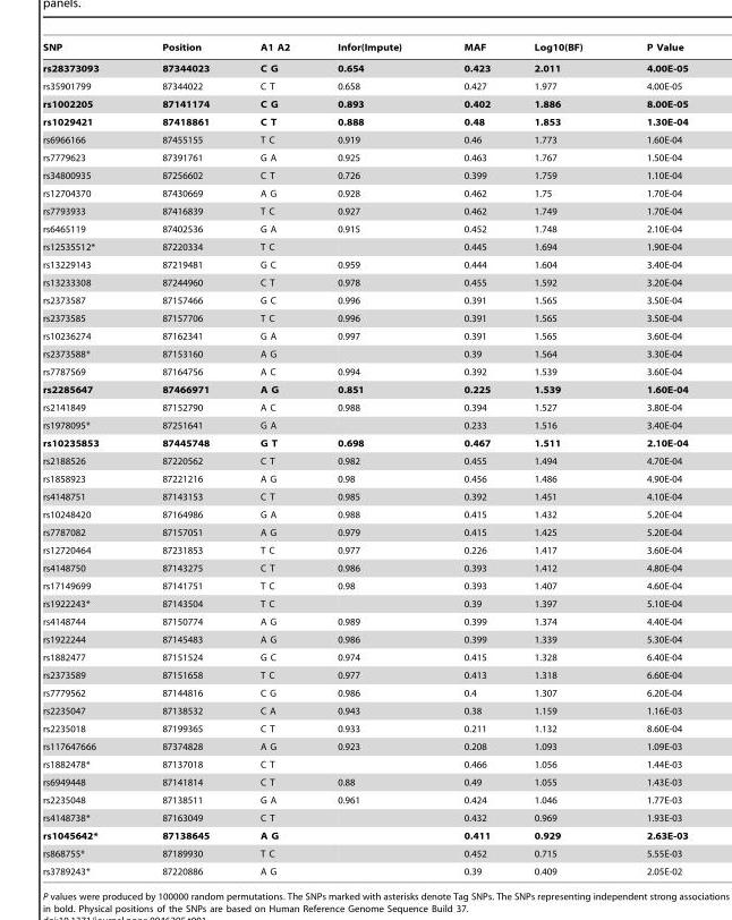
<table><thead><tr><td>SNP</td><td>Position</td><td>A1 A2</td><td>Infor(Impute)</td><td>MAF</td><td>Log10(BF)</td><td>P Value</td></tr></thead><tbody><tr><td>rs28373093</td><td>87344023</td><td>C G</td><td>0.654</td><td>0.423</td><td>2.011</td><td>4.00E-05</td></tr><tr><td>rs35901799</td><td>87344022</td><td>C T</td><td>0.658</td><td>0.427</td><td>1.977</td><td>4.00E-05</td></tr><tr><td>rs1002205</td><td>87141174</td><td>C G</td><td>0.893</td><td>0.402</td><td>1.886</td><td>8.00E-05</td></tr><tr><td>rs1029421</td><td>87418861</td><td>C T</td><td>0.888</td><td>0.48</td><td>1.853</td><td>1.30E-04</td></tr><tr><td>rs6966166</td><td>87455155</td><td>T C</td><td>0.919</td><td>0.46</td><td>1.773</td><td>1.60E-04</td></tr><tr><td>rs7779623</td><td>87391761</td><td>G A</td><td>0.925</td><td>0.463</td><td>1.767</td><td>1.50E-04</td></tr><tr><td>rs34800935</td><td>87256602</td><td>C T</td><td>0.726</td><td>0.399</td><td>1.759</td><td>1.10E-04</td></tr><tr><td>rs12704370</td><td>87430669</td><td>A G</td><td>0.928</td><td>0.462</td><td>1.75</td><td>1.70E-04</td></tr><tr><td>rs7793933</td><td>87416839</td><td>T C</td><td>0.927</td><td>0.462</td><td>1.749</td><td>1.70E-04</td></tr><tr><td>rs6465119</td><td>87402536</td><td>G A</td><td>0.915</td><td>0.452</td><td>1.748</td><td>2.10E-04</td></tr><tr><td>rs12535512*</td><td>87220334</td><td>T C</td><td></td><td>0.445</td><td>1.694</td><td>1.90E-04</td></tr><tr><td>rs13229143</td><td>87219481</td><td>G C</td><td>0.959</td><td>0.444</td><td>1.604</td><td>3.40E-04</td></tr><tr><td>rs13233308</td><td>87244960</td><td>C T</td><td>0.978</td><td>0.455</td><td>1.592</td><td>3.20E-04</td></tr><tr><td>rs2373587</td><td>87157466</td><td>G C</td><td>0.996</td><td>0.391</td><td>1.565</td><td>3.50E-04</td></tr><tr><td>rs2373585</td><td>87157706</td><td>T C</td><td>0.996</td><td>0.391</td><td>1.565</td><td>3.50E-04</td></tr><tr><td>rs10236274</td><td>87162341</td><td>G A</td><td>0.997</td><td>0.391</td><td>1.565</td><td>3.60E-04</td></tr><tr><td>rs2373588*</td><td>87153160</td><td>A G</td><td></td><td>0.39</td><td>1.564</td><td>3.30E-04</td></tr><tr><td>rs7787569</td><td>87164756</td><td>A C</td><td>0.994</td><td>0.392</td><td>1.539</td><td>3.60E-04</td></tr><tr><td>rs2285647</td><td>87466971</td><td>A G</td><td>0.851</td><td>0.225</td><td>1.539</td><td>1.60E-04</td></tr><tr><td>rs2141849</td><td>87152790</td><td>A C</td><td>0.988</td><td>0.394</td><td>1.527</td><td>3.80E-04</td></tr><tr><td>rs1978095*</td><td>87251641</td><td>G A</td><td></td><td>0.233</td><td>1.516</td><td>3.40E-04</td></tr><tr><td>rs10235853</td><td>87445748</td><td>G T</td><td>0.698</td><td>0.467</td><td>1.511</td><td>2.10E-04</td></tr><tr><td>rs2188526</td><td>87220562</td><td>C T</td><td>0.982</td><td>0.455</td><td>1.494</td><td>4.70E-04</td></tr><tr><td>rs1858923</td><td>87221216</td><td>A G</td><td>0.98</td><td>0.456</td><td>1.486</td><td>4.90E-04</td></tr><tr><td>rs4148751</td><td>87143153</td><td>C T</td><td>0.985</td><td>0.392</td><td>1.451</td><td>4.10E-04</td></tr><tr><td>rs10248420</td><td>87164986</td><td>G A</td><td>0.988</td><td>0.415</td><td>1.432</td><td>5.20E-04</td></tr><tr><td>rs7787082</td><td>87157051</td><td>A G</td><td>0.979</td><td>0.415</td><td>1.425</td><td>5.20E-04</td></tr><tr><td>rs12720464</td><td>87231853</td><td>T C</td><td>0.977</td><td>0.226</td><td>1.417</td><td>3.60E-04</td></tr><tr><td>rs4148750</td><td>87143275</td><td>C T</td><td>0.986</td><td>0.393</td><td>1.412</td><td>4.80E-04</td></tr><tr><td>rs17149699</td><td>87141751</td><td>T C</td><td>0.98</td><td>0.393</td><td>1.407</td><td>4.60E-04</td></tr><tr><td>rs1922243*</td><td>87143504</td><td>T C</td><td></td><td>0.39</td><td>1.397</td><td>5.10E-04</td></tr><tr><td>rs4148744</td><td>87150774</td><td>A G</td><td>0.989</td><td>0.399</td><td>1.374</td><td>4.40E-04</td></tr><tr><td>rs1922244</td><td>87145483</td><td>A G</td><td>0.986</td><td>0.399</td><td>1.339</td><td>5.30E-04</td></tr><tr><td>rs1882477</td><td>87151524</td><td>G C</td><td>0.974</td><td>0.415</td><td>1.328</td><td>6.40E-04</td></tr><tr><td>rs2373589</td><td>87151658</td><td>T C</td><td>0.977</td><td>0.413</td><td>1.318</td><td>6.60E-04</td></tr><tr><td>rs7779562</td><td>87144816</td><td>C G</td><td>0.986</td><td>0.4</td><td>1.307</td><td>6.20E-04</td></tr><tr><td>rs2235047</td><td>87138532</td><td>C A</td><td>0.943</td><td>0.38</td><td>1.159</td><td>1.16E-03</td></tr><tr><td>rs2235018</td><td>87199365</td><td>C T</td><td>0.933</td><td>0.211</td><td>1.132</td><td>8.60E-04</td></tr><tr><td>rs117647666</td><td>87374828</td><td>A G</td><td>0.923</td><td>0.208</td><td>1.093</td><td>1.09E-03</td></tr><tr><td>rs1882478*</td><td>87137018</td><td>C T</td><td></td><td>0.466</td><td>1.056</td><td>1.44E-03</td></tr><tr><td>rs6949448</td><td>87141814</td><td>C T</td><td>0.88</td><td>0.49</td><td>1.055</td><td>1.43E-03</td></tr><tr><td>rs2235048</td><td>87138511</td><td>G A</td><td>0.961</td><td>0.424</td><td>1.046</td><td>1.77E-03</td></tr><tr><td>rs4148738*</td><td>87163049</td><td>C T</td><td></td><td>0.432</td><td>0.969</td><td>1.93E-03</td></tr><tr><td>rs1045642*</td><td>87138645</td><td>A G</td><td></td><td>0.411</td><td>0.929</td><td>2.63E-03</td></tr><tr><td>rs868755*</td><td>87189930</td><td>T C</td><td></td><td>0.452</td><td>0.715</td><td>5.55E-03</td></tr><tr><td>rs3789243*</td><td>87220886</td><td>A G</td><td></td><td>0.39</td><td>0.409</td><td>2.05E-02</td></tr></tbody></table>